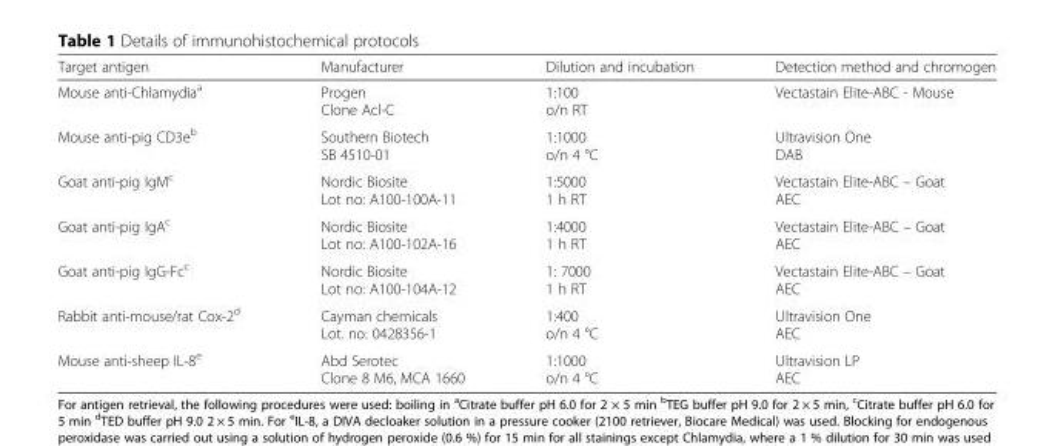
<table><thead><tr><td>Target antigen</td><td>Manufacturer</td><td>Dilution and incubation</td><td>Detection method and chromogen</td></tr></thead><tbody><tr><td>Mouse anti-Chlamydia<sup>a</sup></td><td>Progen Clone Acl-C</td><td>1:100 o/n RT</td><td>Vectastain Elite-ABC - Mouse</td></tr><tr><td>Mouse anti-pig CD3e<sup>b</sup></td><td>Southern Biotech SB 4510-01</td><td>1:1000 o/n 4 °C</td><td>Ultravision One DAB</td></tr><tr><td>Goat anti-pig IgM<sup>c</sup></td><td>Nordic Biosite Lot no: A100-100A-11</td><td>1:5000 1 h RT</td><td>Vectastain Elite-ABC – Goat AEC</td></tr><tr><td>Goat anti-pig IgA<sup>c</sup></td><td>Nordic Biosite Lot no: A100-102A-16</td><td>1:4000 1 h RT</td><td>Vectastain Elite-ABC – Goat AEC</td></tr><tr><td>Goat anti-pig IgG-Fc<sup>c</sup></td><td>Nordic Biosite Lot no: A100-104A-12</td><td>1: 7000 1 h RT</td><td>Vectastain Elite-ABC – Goat AEC</td></tr><tr><td>Rabbit anti-mouse/rat Cox-2<sup>d</sup></td><td>Cayman chemicals Lot. no: 0428356-1</td><td>1:400 o/n 4 °C</td><td>Ultravision One AEC</td></tr><tr><td>Mouse anti-sheep IL-8<sup>e</sup></td><td>Abd Serotec Clone 8 M6, MCA 1660</td><td>1:1000 o/n 4 °C</td><td>Ultravision LP AEC</td></tr></tbody></table>